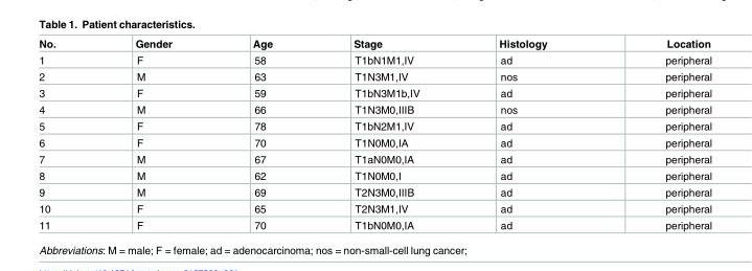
<table><thead><tr><td>No.</td><td>Gender</td><td>Age</td><td>Stage</td><td>Histology</td><td>Location</td></tr></thead><tbody><tr><td>1</td><td>F</td><td>58</td><td>T1bN1M1,IV</td><td>ad</td><td>peripheral</td></tr><tr><td>2</td><td>M</td><td>63</td><td>T1N3M1,IV</td><td>nos</td><td>peripheral</td></tr><tr><td>3</td><td>F</td><td>59</td><td>T1bN3M1b,IV</td><td>ad</td><td>peripheral</td></tr><tr><td>4</td><td>M</td><td>66</td><td>T1N3M0,IIIB</td><td>nos</td><td>peripheral</td></tr><tr><td>5</td><td>F</td><td>78</td><td>T1bN2M1,IV</td><td>ad</td><td>peripheral</td></tr><tr><td>6</td><td>F</td><td>70</td><td>T1N0M0,IA</td><td>ad</td><td>peripheral</td></tr><tr><td>7</td><td>M</td><td>67</td><td>T1aN0M0,IA</td><td>ad</td><td>peripheral</td></tr><tr><td>8</td><td>M</td><td>62</td><td>T1N0M0,I</td><td>ad</td><td>peripheral</td></tr><tr><td>9</td><td>M</td><td>69</td><td>T2N3M0,IIIB</td><td>ad</td><td>peripheral</td></tr><tr><td>10</td><td>F</td><td>65</td><td>T2N3M1,IV</td><td>ad</td><td>peripheral</td></tr><tr><td>11</td><td>F</td><td>70</td><td>T1bN0M0,IA</td><td>ad</td><td>peripheral</td></tr></tbody></table>